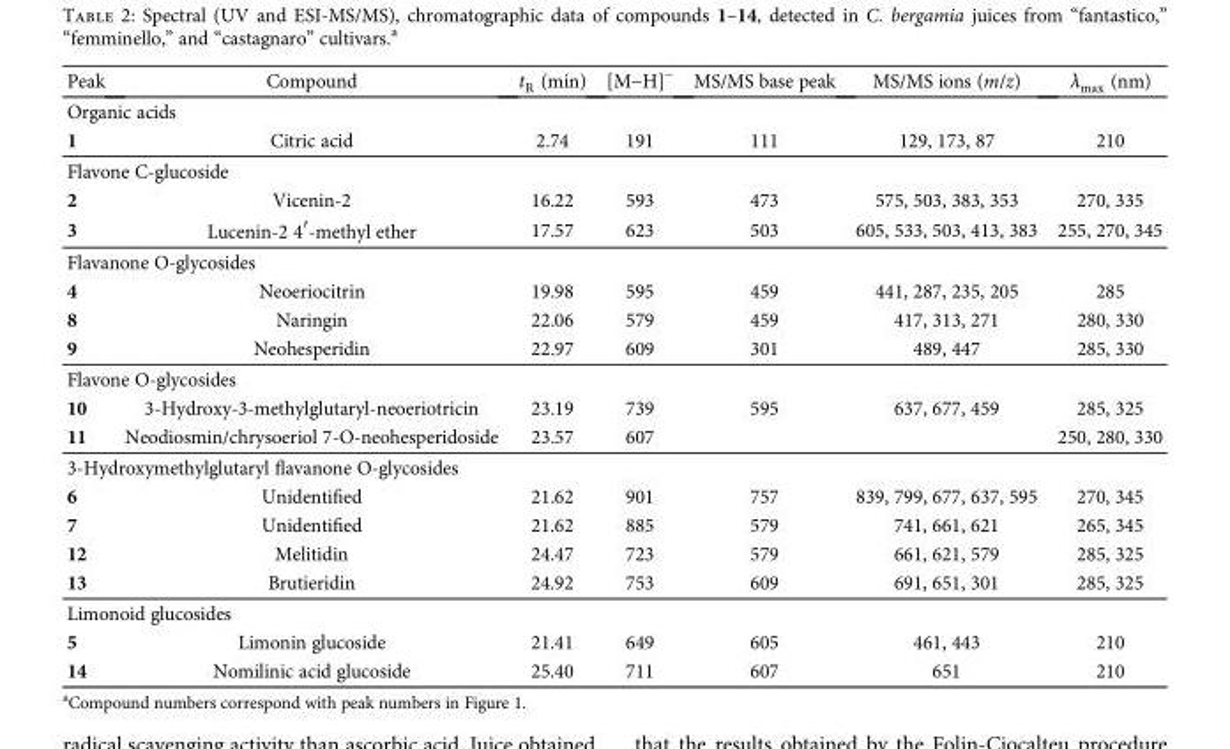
<table><thead><tr><td>Peak</td><td>Compound</td><td>t<sub>R</sub> (min)</td><td>[M−H]<sup>−</sup></td><td>MS/MS base peak</td><td>MS/MS ions (m/z)</td><td>λ<sub>max</sub> (nm)</td></tr></thead><tbody><tr><td colspan="7">Organic acids</td></tr><tr><td>1</td><td>Citric acid</td><td>2.74</td><td>191</td><td>111</td><td>129, 173, 87</td><td>210</td></tr><tr><td colspan="7">Flavone C-glucoside</td></tr><tr><td>2</td><td>Vicenin-2</td><td>16.22</td><td>593</td><td>473</td><td>575, 503, 383, 353</td><td>270, 335</td></tr><tr><td>3</td><td>Lucenin-2 4′-methyl ether</td><td>17.57</td><td>623</td><td>503</td><td>605, 533, 503, 413, 383</td><td>255, 270, 345</td></tr><tr><td colspan="7">Flavanone O-glycosides</td></tr><tr><td>4</td><td>Neoeriocitrin</td><td>19.98</td><td>595</td><td>459</td><td>441, 287, 235, 205</td><td>285</td></tr><tr><td>8</td><td>Naringin</td><td>22.06</td><td>579</td><td>459</td><td>417, 313, 271</td><td>280, 330</td></tr><tr><td>9</td><td>Neohesperidin</td><td>22.97</td><td>609</td><td>301</td><td>489, 447</td><td>285, 330</td></tr><tr><td colspan="7">Flavone O-glycosides</td></tr><tr><td>10</td><td>3-Hydroxy-3-methylglutaryl-neoeriotricin</td><td>23.19</td><td>739</td><td>595</td><td>637, 677, 459</td><td>285, 325</td></tr><tr><td>11</td><td>Neodiosmin/chrysoeriol 7-O-neohesperidoside</td><td>23.57</td><td>607</td><td></td><td></td><td>250, 280, 330</td></tr><tr><td colspan="7">3-Hydroxymethylglutaryl flavanone O-glycosides</td></tr><tr><td>6</td><td>Unidentified</td><td>21.62</td><td>901</td><td>757</td><td>839, 799, 677, 637, 595</td><td>270, 345</td></tr><tr><td>7</td><td>Unidentified</td><td>21.62</td><td>885</td><td>579</td><td>741, 661, 621</td><td>265, 345</td></tr><tr><td>12</td><td>Melitidin</td><td>24.47</td><td>723</td><td>579</td><td>661, 621, 579</td><td>285, 325</td></tr><tr><td>13</td><td>Brutieridin</td><td>24.92</td><td>753</td><td>609</td><td>691, 651, 301</td><td>285, 325</td></tr><tr><td colspan="7">Limonoid glucosides</td></tr><tr><td>5</td><td>Limonin glucoside</td><td>21.41</td><td>649</td><td>605</td><td>461, 443</td><td>210</td></tr><tr><td>14</td><td>Nomilinic acid glucoside</td><td>25.40</td><td>711</td><td>607</td><td>651</td><td>210</td></tr></tbody></table>